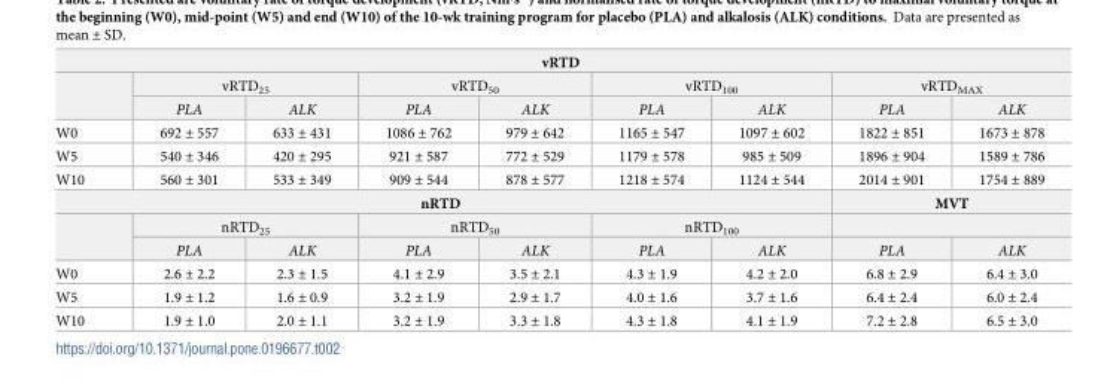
<table><tbody><tr><td colspan="9">vRTD</td></tr><tr><td rowspan="2"></td><td colspan="2">vRTD<sub>25</sub></td><td colspan="2">vRTD<sub>50</sub></td><td colspan="2">vRTD<sub>100</sub></td><td colspan="2">vRTD<sub>MAX</sub></td></tr><tr><td>PLA</td><td>ALK</td><td>PLA</td><td>ALK</td><td>PLA</td><td>ALK</td><td>PLA</td><td>ALK</td></tr><tr><td>W0</td><td>692 ± 557</td><td>633 ± 431</td><td>1086 ± 762</td><td>979 ± 642</td><td>1165 ± 547</td><td>1097 ± 602</td><td>1822 ± 851</td><td>1673 ± 878</td></tr><tr><td>W5</td><td>540 ± 346</td><td>420 ± 295</td><td>921 ± 587</td><td>772 ± 529</td><td>1179 ± 578</td><td>985 ± 509</td><td>1896 ± 904</td><td>1589 ± 786</td></tr><tr><td>W10</td><td>560 ± 301</td><td>533 ± 349</td><td>909 ± 544</td><td>878 ± 577</td><td>1218 ± 574</td><td>1124 ± 544</td><td>2014 ± 901</td><td>1754 ± 889</td></tr><tr><td colspan="7">nRTD</td><td colspan="2">MVT</td></tr><tr><td rowspan="2"></td><td colspan="2">nRTD<sub>25</sub></td><td colspan="2">nRTD<sub>50</sub></td><td colspan="2">nRTD<sub>100</sub></td><td colspan="2"></td></tr><tr><td>PLA</td><td>ALK</td><td>PLA</td><td>ALK</td><td>PLA</td><td>ALK</td><td>PLA</td><td>ALK</td></tr><tr><td>W0</td><td>2.6 ± 2.2</td><td>2.3 ± 1.5</td><td>4.1 ± 2.9</td><td>3.5 ± 2.1</td><td>4.3 ± 1.9</td><td>4.2 ± 2.0</td><td>6.8 ± 2.9</td><td>6.4 ± 3.0</td></tr><tr><td>W5</td><td>1.9 ± 1.2</td><td>1.6 ± 0.9</td><td>3.2 ± 1.9</td><td>2.9 ± 1.7</td><td>4.0 ± 1.6</td><td>3.7 ± 1.6</td><td>6.4 ± 2.4</td><td>6.0 ± 2.4</td></tr><tr><td>W10</td><td>1.9 ± 1.0</td><td>2.0 ± 1.1</td><td>3.2 ± 1.9</td><td>3.3 ± 1.8</td><td>4.3 ± 1.8</td><td>4.1 ± 1.9</td><td>7.2 ± 2.8</td><td>6.5 ± 3.0</td></tr></tbody></table>